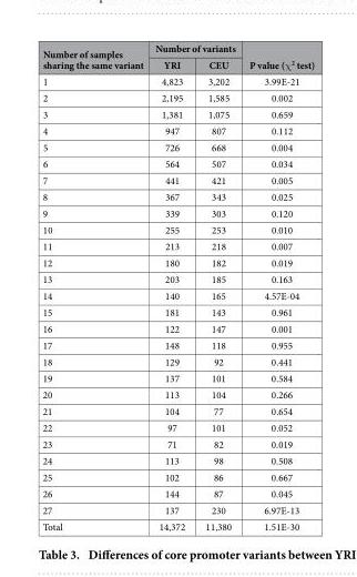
<table><thead><tr><td rowspan="2">Number of samples sharing the same variant</td><td colspan="2">Number of variants</td><td rowspan="2">P value (χ <sup>2</sup> test)</td></tr><tr><td>YRI</td><td>CEU</td></tr></thead><tbody><tr><td>1</td><td>4,823</td><td>3,202</td><td>3.99E-21</td></tr><tr><td>2</td><td>2,195</td><td>1,585</td><td>0.002</td></tr><tr><td>3</td><td>1,381</td><td>1,075</td><td>0.659</td></tr><tr><td>4</td><td>947</td><td>807</td><td>0.112</td></tr><tr><td>5</td><td>726</td><td>668</td><td>0.004</td></tr><tr><td>6</td><td>564</td><td>507</td><td>0.034</td></tr><tr><td>7</td><td>441</td><td>421</td><td>0.005</td></tr><tr><td>8</td><td>367</td><td>343</td><td>0.025</td></tr><tr><td>9</td><td>339</td><td>303</td><td>0.120</td></tr><tr><td>10</td><td>255</td><td>253</td><td>0.010</td></tr><tr><td>11</td><td>213</td><td>218</td><td>0.007</td></tr><tr><td>12</td><td>180</td><td>182</td><td>0.019</td></tr><tr><td>13</td><td>203</td><td>185</td><td>0.163</td></tr><tr><td>14</td><td>140</td><td>165</td><td>4.57E-04</td></tr><tr><td>15</td><td>181</td><td>143</td><td>0.961</td></tr><tr><td>16</td><td>122</td><td>147</td><td>0.001</td></tr><tr><td>17</td><td>148</td><td>118</td><td>0.955</td></tr><tr><td>18</td><td>129</td><td>92</td><td>0.441</td></tr><tr><td>19</td><td>137</td><td>101</td><td>0.584</td></tr><tr><td>20</td><td>113</td><td>104</td><td>0.266</td></tr><tr><td>21</td><td>104</td><td>77</td><td>0.654</td></tr><tr><td>22</td><td>97</td><td>101</td><td>0.052</td></tr><tr><td>23</td><td>71</td><td>82</td><td>0.019</td></tr><tr><td>24</td><td>113</td><td>98</td><td>0.508</td></tr><tr><td>25</td><td>102</td><td>86</td><td>0.667</td></tr><tr><td>26</td><td>144</td><td>87</td><td>0.045</td></tr><tr><td>27</td><td>137</td><td>230</td><td>6.97E-13</td></tr><tr><td>Total</td><td>14,372</td><td>11,380</td><td>1.51E-30</td></tr></tbody></table>